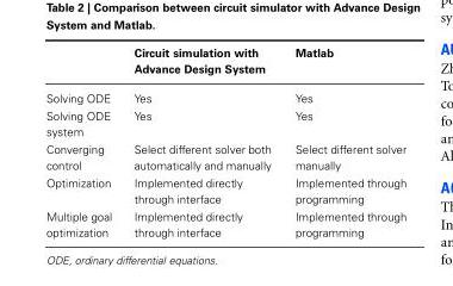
<table><thead><tr><td></td><td>Circuit simulation with Advance Design System</td><td>Matlab</td></tr></thead><tbody><tr><td>Solving ODE</td><td>Yes</td><td>Yes</td></tr><tr><td>Solving ODE system</td><td>Yes</td><td>Yes</td></tr><tr><td>Converging control</td><td>Select different solver both automatically and manually</td><td>Select different solver manually</td></tr><tr><td>Optimization</td><td>Implemented directly through interface</td><td>Implemented through programming</td></tr><tr><td>Multiple goal optimization</td><td>Implemented directly through interface</td><td>Implemented through programming</td></tr></tbody></table>